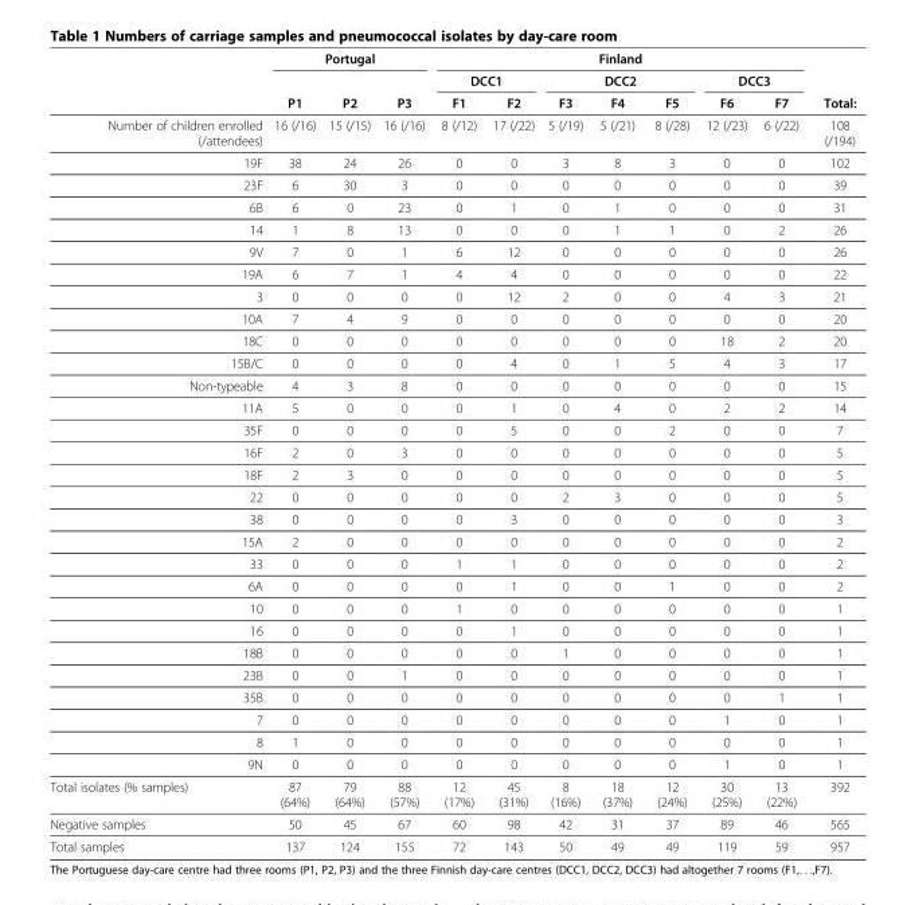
<table><thead><tr><td rowspan="3"></td><td colspan="3">Portugal</td><td colspan="7">Finland</td><td rowspan="3">Total:</td></tr><tr><td rowspan="2">P1</td><td rowspan="2">P2</td><td rowspan="2">P3</td><td colspan="2">DCC1</td><td colspan="3">DCC2</td><td colspan="2">DCC3</td></tr><tr><td>F1</td><td>F2</td><td>F3</td><td>F4</td><td>F5</td><td>F6</td><td>F7</td></tr></thead><tbody><tr><td>Number of children enrolled (/attendees)</td><td>16 (/16)</td><td>15 (/15)</td><td>16 (/16)</td><td>8 (/12)</td><td>17 (/22)</td><td>5 (/19)</td><td>5 (/21)</td><td>8 (/28)</td><td>12 (/23)</td><td>6 (/22)</td><td>108 (/194)</td></tr><tr><td>19F</td><td>38</td><td>24</td><td>26</td><td>0</td><td>0</td><td>3</td><td>8</td><td>3</td><td>0</td><td>0</td><td>102</td></tr><tr><td>23F</td><td>6</td><td>30</td><td>3</td><td>0</td><td>0</td><td>0</td><td>0</td><td>0</td><td>0</td><td>0</td><td>39</td></tr><tr><td>6B</td><td>6</td><td>0</td><td>23</td><td>0</td><td>1</td><td>0</td><td>1</td><td>0</td><td>0</td><td>0</td><td>31</td></tr><tr><td>14</td><td>1</td><td>8</td><td>13</td><td>0</td><td>0</td><td>0</td><td>1</td><td>1</td><td>0</td><td>2</td><td>26</td></tr><tr><td>9V</td><td>7</td><td>0</td><td>1</td><td>6</td><td>12</td><td>0</td><td>0</td><td>0</td><td>0</td><td>0</td><td>26</td></tr><tr><td>19A</td><td>6</td><td>7</td><td>1</td><td>4</td><td>4</td><td>0</td><td>0</td><td>0</td><td>0</td><td>0</td><td>22</td></tr><tr><td>3</td><td>0</td><td>0</td><td>0</td><td>0</td><td>12</td><td>2</td><td>0</td><td>0</td><td>4</td><td>3</td><td>21</td></tr><tr><td>10A</td><td>7</td><td>4</td><td>9</td><td>0</td><td>0</td><td>0</td><td>0</td><td>0</td><td>0</td><td>0</td><td>20</td></tr><tr><td>18C</td><td>0</td><td>0</td><td>0</td><td>0</td><td>0</td><td>0</td><td>0</td><td>0</td><td>18</td><td>2</td><td>20</td></tr><tr><td>15B/C</td><td>0</td><td>0</td><td>0</td><td>0</td><td>4</td><td>0</td><td>1</td><td>5</td><td>4</td><td>3</td><td>17</td></tr><tr><td>Non-typeable</td><td>4</td><td>3</td><td>8</td><td>0</td><td>0</td><td>0</td><td>0</td><td>0</td><td>0</td><td>0</td><td>15</td></tr><tr><td>11A</td><td>5</td><td>0</td><td>0</td><td>0</td><td>1</td><td>0</td><td>4</td><td>0</td><td>2</td><td>2</td><td>14</td></tr><tr><td>35F</td><td>0</td><td>0</td><td>0</td><td>0</td><td>5</td><td>0</td><td>0</td><td>2</td><td>0</td><td>0</td><td>7</td></tr><tr><td>16F</td><td>2</td><td>0</td><td>3</td><td>0</td><td>0</td><td>0</td><td>0</td><td>0</td><td>0</td><td>0</td><td>5</td></tr><tr><td>18F</td><td>2</td><td>3</td><td>0</td><td>0</td><td>0</td><td>0</td><td>0</td><td>0</td><td>0</td><td>0</td><td>5</td></tr><tr><td>22</td><td>0</td><td>0</td><td>0</td><td>0</td><td>0</td><td>2</td><td>3</td><td>0</td><td>0</td><td>0</td><td>5</td></tr><tr><td>38</td><td>0</td><td>0</td><td>0</td><td>0</td><td>3</td><td>0</td><td>0</td><td>0</td><td>0</td><td>0</td><td>3</td></tr><tr><td>15A</td><td>2</td><td>0</td><td>0</td><td>0</td><td>0</td><td>0</td><td>0</td><td>0</td><td>0</td><td>0</td><td>2</td></tr><tr><td>33</td><td>0</td><td>0</td><td>0</td><td>1</td><td>1</td><td>0</td><td>0</td><td>0</td><td>0</td><td>0</td><td>2</td></tr><tr><td>6A</td><td>0</td><td>0</td><td>0</td><td>0</td><td>1</td><td>0</td><td>0</td><td>1</td><td>0</td><td>0</td><td>2</td></tr><tr><td>10</td><td>0</td><td>0</td><td>0</td><td>1</td><td>0</td><td>0</td><td>0</td><td>0</td><td>0</td><td>0</td><td>1</td></tr><tr><td>16</td><td>0</td><td>0</td><td>0</td><td>0</td><td>1</td><td>0</td><td>0</td><td>0</td><td>0</td><td>0</td><td>1</td></tr><tr><td>18B</td><td>0</td><td>0</td><td>0</td><td>0</td><td>0</td><td>1</td><td>0</td><td>0</td><td>0</td><td>0</td><td>1</td></tr><tr><td>23B</td><td>0</td><td>0</td><td>1</td><td>0</td><td>0</td><td>0</td><td>0</td><td>0</td><td>0</td><td>0</td><td>1</td></tr><tr><td>35B</td><td>0</td><td>0</td><td>0</td><td>0</td><td>0</td><td>0</td><td>0</td><td>0</td><td>0</td><td>1</td><td>1</td></tr><tr><td>7</td><td>0</td><td>0</td><td>0</td><td>0</td><td>0</td><td>0</td><td>0</td><td>0</td><td>1</td><td>0</td><td>1</td></tr><tr><td>8</td><td>1</td><td>0</td><td>0</td><td>0</td><td>0</td><td>0</td><td>0</td><td>0</td><td>0</td><td>0</td><td>1</td></tr><tr><td>9N</td><td>0</td><td>0</td><td>0</td><td>0</td><td>0</td><td>0</td><td>0</td><td>0</td><td>1</td><td>0</td><td>1</td></tr><tr><td>Total isolates (% samples)</td><td>87 (64%)</td><td>79 (64%)</td><td>88 (57%)</td><td>12 (17%)</td><td>45 (31%)</td><td>8 (16%)</td><td>18 (37%)</td><td>12 (24%)</td><td>30 (25%)</td><td>13 (22%)</td><td>392</td></tr><tr><td>Negative samples</td><td>50</td><td>45</td><td>67</td><td>60</td><td>98</td><td>42</td><td>31</td><td>37</td><td>89</td><td>46</td><td>565</td></tr><tr><td>Total samples</td><td>137</td><td>124</td><td>155</td><td>72</td><td>143</td><td>50</td><td>49</td><td>49</td><td>119</td><td>59</td><td>957</td></tr></tbody></table>